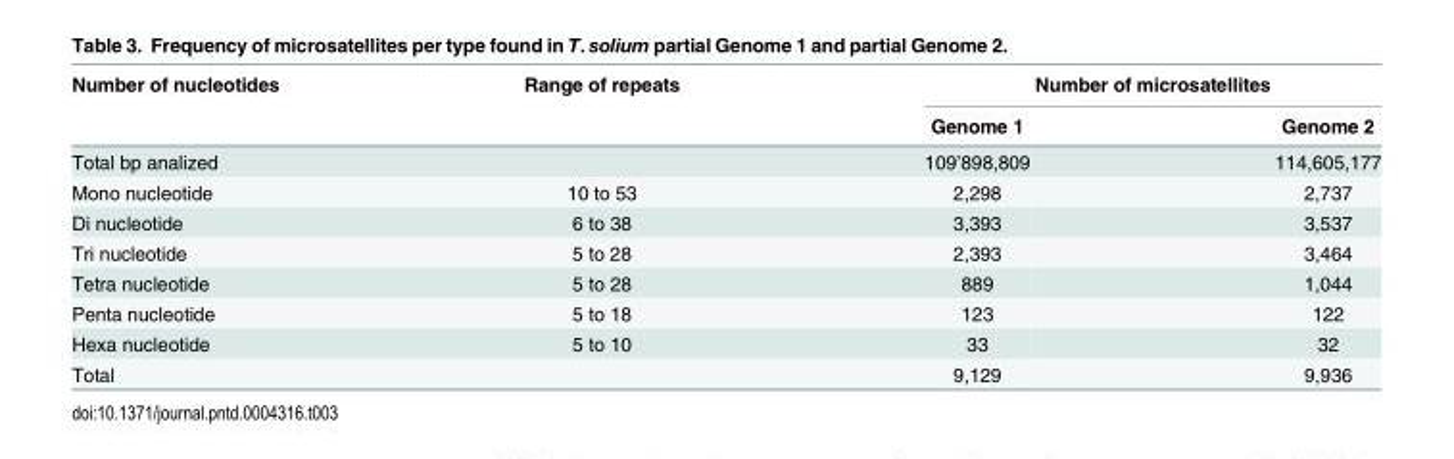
<table><thead><tr><td rowspan="2">Number of nucleotides</td><td rowspan="2">Range of repeats</td><td colspan="2">Number of microsatellites</td></tr><tr><td>Genome 1</td><td>Genome 2</td></tr></thead><tbody><tr><td>Total bp analized</td><td></td><td>109’898,809</td><td>114,605,177</td></tr><tr><td>Mono nucleotide</td><td>10 to 53</td><td>2,298</td><td>2,737</td></tr><tr><td>Di nucleotide</td><td>6 to 38</td><td>3,393</td><td>3,537</td></tr><tr><td>Tri nucleotide</td><td>5 to 28</td><td>2,393</td><td>3,464</td></tr><tr><td>Tetra nucleotide</td><td>5 to 28</td><td>889</td><td>1,044</td></tr><tr><td>Penta nucleotide</td><td>5 to 18</td><td>123</td><td>122</td></tr><tr><td>Hexa nucleotide</td><td>5 to 10</td><td>33</td><td>32</td></tr><tr><td>Total</td><td></td><td>9,129</td><td>9,936</td></tr></tbody></table>